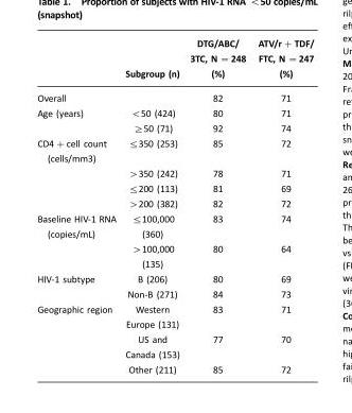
<table><thead><tr><td></td><td>Subgroup (n)</td><td>DTG/ABC/ 3TC, N =248 (%)</td><td>ATV/r+TDF/ FTC, N =247 (%)</td></tr></thead><tbody><tr><td>Overall</td><td></td><td>82</td><td>71</td></tr><tr><td rowspan="2">Age (years)</td><td>&lt;50 (424)</td><td>80</td><td>71</td></tr><tr><td>≥50 (71)</td><td>92</td><td>74</td></tr><tr><td rowspan="4">CD4+cell count (cells/mm3)</td><td>≤350 (253)</td><td>85</td><td>72</td></tr><tr><td>&gt;350 (242)</td><td>78</td><td>71</td></tr><tr><td>≤200 (113)</td><td>81</td><td>69</td></tr><tr><td>&gt;200 (382)</td><td>82</td><td>72</td></tr><tr><td rowspan="2">Baseline HIV-1 RNA (copies/mL)</td><td>≤100,000 (360)</td><td>83</td><td>74</td></tr><tr><td>&gt;100,000 (135)</td><td>80</td><td>64</td></tr><tr><td rowspan="2">HIV-1 subtype</td><td>B (206)</td><td>80</td><td>69</td></tr><tr><td>Non-B (271)</td><td>84</td><td>73</td></tr><tr><td rowspan="3">Geographic region</td><td>Western Europe (131)</td><td>83</td><td>71</td></tr><tr><td>US and Canada (153)</td><td>77</td><td>70</td></tr><tr><td>Other (211)</td><td>85</td><td>72</td></tr></tbody></table>